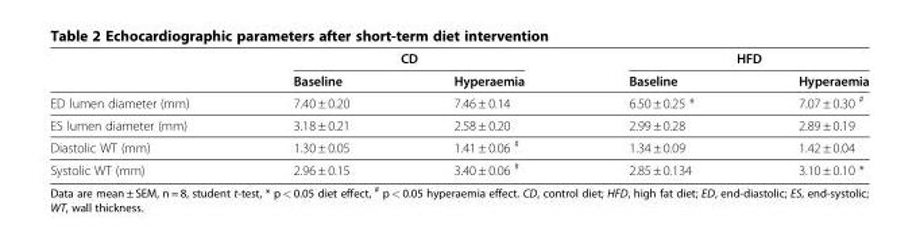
<table><thead><tr><td rowspan="2"></td><td colspan="2">CD</td><td colspan="2">HFD</td></tr><tr><td>Baseline</td><td>Hyperaemia</td><td>Baseline</td><td>Hyperaemia</td></tr></thead><tbody><tr><td>ED lumen diameter (mm)</td><td>7.40 ± 0.20</td><td>7.46 ± 0.14</td><td>6.50 ± 0.25 *</td><td>7.07 ± 0.30 <sup>#</sup></td></tr><tr><td>ES lumen diameter (mm)</td><td>3.18 ± 0.21</td><td>2.58 ± 0.20</td><td>2.99 ± 0.28</td><td>2.89 ± 0.19</td></tr><tr><td>Diastolic WT (mm)</td><td>1.30 ± 0.05</td><td>1.41 ± 0.06 <sup>#</sup></td><td>1.34 ± 0.09</td><td>1.42 ± 0.04</td></tr><tr><td>Systolic WT (mm)</td><td>2.96 ± 0.15</td><td>3.40 ± 0.06 <sup>#</sup></td><td>2.85 ± 0.134</td><td>3.10 ± 0.10 *</td></tr></tbody></table>